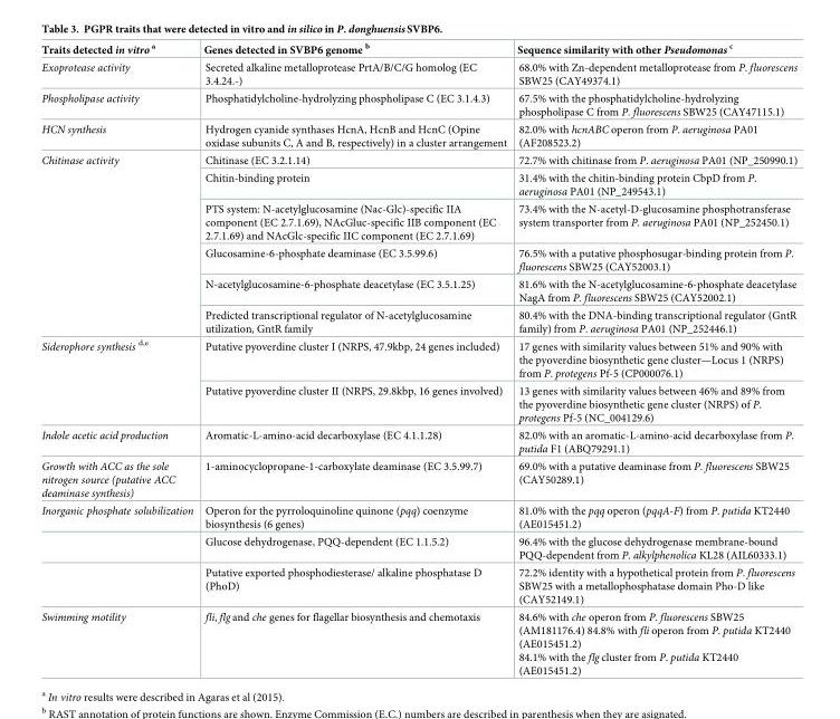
<table><thead><tr><td>Traits detected in vitro <sup>a</sup></td><td>Genes detected in SVBP6 genome <sup>b</sup></td><td>Sequence similarity with other Pseudomonas <sup>c</sup></td></tr></thead><tbody><tr><td>Exoprotease activity</td><td>Secreted alkaline metalloprotease PrtA/B/C/G homolog (EC 3.4.24.-)</td><td>68.0% with Zn-dependent metalloprotease from P. fluorescens SBW25 (CAY49374.1)</td></tr><tr><td>Phospholipase activity</td><td>Phosphatidylcholine-hydrolyzing phospholipase C (EC 3.1.4.3)</td><td>67.5% with the phosphatidylcholine-hydrolyzing phospholipase C from P. fluorescens SBW25 (CAY47115.1)</td></tr><tr><td>HCN synthesis</td><td>Hydrogen cyanide synthases HcnA, HcnB and HcnC (Opine oxidase subunits C, A and B, respectively) in a cluster arrangement</td><td>82.0% with hcnABC operon from P. aeruginosa PA01 (AF208523.2)</td></tr><tr><td rowspan="6">Chitinase activity</td><td>Chitinase (EC 3.2.1.14)</td><td>72.7% with chitinase from P. aeruginosa PA01 (NP_250990.1)</td></tr><tr><td>Chitin-binding protein</td><td>31.4% with the chitin-binding protein CbpD from P. aeruginosa PA01 (NP_249543.1)</td></tr><tr><td>PTS system: N-acetylglucosamine (Nac-Glc)-specific IIA component (EC 2.7.1.69), NAcGluc-specific IIB component (EC 2.7.1.69) and NAcGlc-specific IIC component (EC 2.7.1.69)</td><td>73.4% with the N-acetyl-D-glucosamine phosphotransferase system transporter from P. aeruginosa PA01 (NP_252450.1)</td></tr><tr><td>Glucosamine-6-phosphate deaminase (EC 3.5.99.6)</td><td>76.5% with a putative phosphosugar-binding protein from P. fluorescens SBW25 (CAY52003.1)</td></tr><tr><td>N-acetylglucosamine-6-phosphate deacetylase (EC 3.5.1.25)</td><td>81.6% with the N-acetylglucosamine-6-phosphate deacetylase NagA from P. fluorescens SBW25 (CAY52002.1)</td></tr><tr><td>Predicted transcriptional regulator of N-acetylglucosamine utilization, GntR family</td><td>80.4% with the DNA-binding transcriptional regulator (GntR family) from P. aeruginosa PA01 (NP_252446.1)</td></tr><tr><td rowspan="2">Siderophore synthesis <sup>d,e</sup></td><td>Putative pyoverdine cluster I (NRPS, 47.9kbp, 24 genes included)</td><td>17 genes with similarity values between 51% and 90% with the pyoverdine biosynthetic gene cluster—Locus 1 (NRPS) from P. protegens Pf-5 (CP000076.1)</td></tr><tr><td>Putative pyoverdine cluster II (NRPS, 29.8kbp, 16 genes involved)</td><td>13 genes with similarity values between 46% and 89% from the pyoverdine biosynthetic gene cluster (NRPS) of P. protegens Pf-5 (NC_004129.6)</td></tr><tr><td>Indole acetic acid production</td><td>Aromatic-L-amino-acid decarboxylase (EC 4.1.1.28)</td><td>82.0% with an aromatic-L-amino-acid decarboxylase from P. putida F1 (ABQ79291.1)</td></tr><tr><td>Growth with ACC as the sole nitrogen source (putative ACC deaminase synthesis)</td><td>1-aminocyclopropane-1-carboxylate deaminase (EC 3.5.99.7)</td><td>69.0% with a putative deaminase from P. fluorescens SBW25 (CAY50289.1)</td></tr><tr><td rowspan="3">Inorganic phosphate solubilization</td><td>Operon for the pyrroloquinoline quinone (pqq) coenzyme biosynthesis (6 genes)</td><td>81.0% with the pqq operon (pqqA-F) from P. putida KT2440 (AE015451.2)</td></tr><tr><td>Glucose dehydrogenase, PQQ-dependent (EC 1.1.5.2)</td><td>96.4% with the glucose dehydrogenase membrane-bound PQQ-dependent from P. alkylphenolica KL28 (AIL60333.1)</td></tr><tr><td>Putative exported phosphodiesterase/ alkaline phosphatase D (PhoD)</td><td>72.2% identity with a hypothetical protein from P. fluorescens SBW25 with a metallophosphatase domain Pho-D like (CAY52149.1)</td></tr><tr><td>Swimming motility</td><td>fli, flg and che genes for flagellar biosynthesis and chemotaxis</td><td>84.6% with che operon from P. fluorescens SBW25 (AM181176.4) 84.8% with fli operon from P. putida KT2440 (AE015451.2) 84.1% with the flg cluster from P. putida KT2440 (AE015451.2)</td></tr></tbody></table>